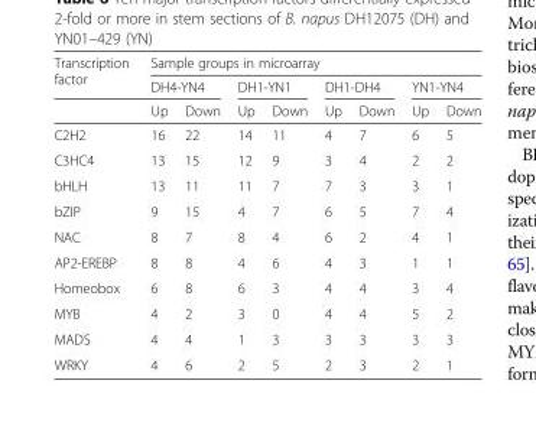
<table><thead><tr><td rowspan="3">Transcription factor</td><td colspan="8">Sample groups in microarray</td></tr><tr><td colspan="2">DH4-YN4</td><td colspan="2">DH1-YN1</td><td colspan="2">DH1-DH4</td><td colspan="2">YN1-YN4</td></tr><tr><td>Up</td><td>Down</td><td>Up</td><td>Down</td><td>Up</td><td>Down</td><td>Up</td><td>Down</td></tr></thead><tbody><tr><td>C2H2</td><td>16</td><td>22</td><td>14</td><td>11</td><td>4</td><td>7</td><td>6</td><td>5</td></tr><tr><td>C3HC4</td><td>13</td><td>15</td><td>12</td><td>9</td><td>3</td><td>4</td><td>2</td><td>2</td></tr><tr><td>bHLH</td><td>13</td><td>11</td><td>11</td><td>7</td><td>7</td><td>3</td><td>3</td><td>1</td></tr><tr><td>bZIP</td><td>9</td><td>15</td><td>4</td><td>7</td><td>6</td><td>5</td><td>7</td><td>4</td></tr><tr><td>NAC</td><td>8</td><td>7</td><td>8</td><td>4</td><td>6</td><td>2</td><td>4</td><td>1</td></tr><tr><td>AP2-EREBP</td><td>8</td><td>8</td><td>4</td><td>6</td><td>4</td><td>3</td><td>1</td><td>1</td></tr><tr><td>Homeobox</td><td>6</td><td>8</td><td>6</td><td>3</td><td>4</td><td>4</td><td>3</td><td>4</td></tr><tr><td>MYB</td><td>4</td><td>2</td><td>3</td><td>0</td><td>4</td><td>4</td><td>5</td><td>2</td></tr><tr><td>MADS</td><td>4</td><td>4</td><td>1</td><td>3</td><td>3</td><td>3</td><td>3</td><td>3</td></tr><tr><td>WRKY</td><td>4</td><td>6</td><td>2</td><td>5</td><td>2</td><td>3</td><td>2</td><td>1</td></tr></tbody></table>